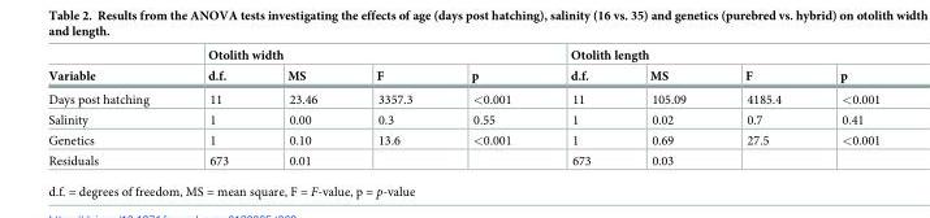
<table><thead><tr><td rowspan="2">Variable</td><td colspan="4">Otolith width</td><td colspan="4">Otolith length</td></tr><tr><td>d.f.</td><td>MS</td><td>F</td><td>p</td><td>d.f.</td><td>MS</td><td>F</td><td>p</td></tr></thead><tbody><tr><td>Days post hatching</td><td>11</td><td>23.46</td><td>3357.3</td><td>&lt;0.001</td><td>11</td><td>105.09</td><td>4185.4</td><td>&lt;0.001</td></tr><tr><td>Salinity</td><td>1</td><td>0.00</td><td>0.3</td><td>0.55</td><td>1</td><td>0.02</td><td>0.7</td><td>0.41</td></tr><tr><td>Genetics</td><td>1</td><td>0.10</td><td>13.6</td><td>&lt;0.001</td><td>1</td><td>0.69</td><td>27.5</td><td>&lt;0.001</td></tr><tr><td>Residuals</td><td>673</td><td>0.01</td><td></td><td></td><td>673</td><td>0.03</td><td></td><td></td></tr></tbody></table>